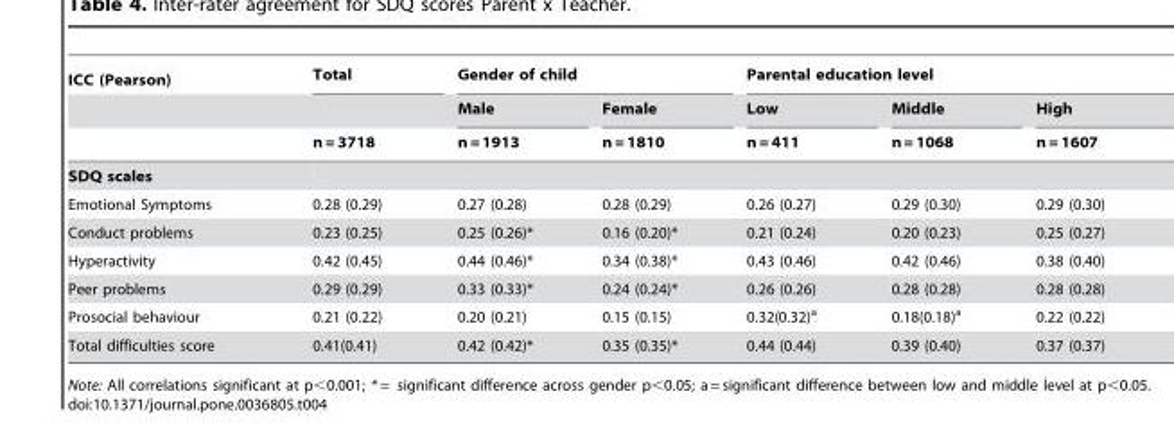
<table><thead><tr><td rowspan="3">ICC (Pearson)</td><td rowspan="3">Total n = 3718</td><td colspan="2">Gender of child</td><td colspan="3">Parental education level</td></tr><tr><td rowspan="2">Male n = 1913</td><td rowspan="2">Female n = 1810</td><td rowspan="2">Low n = 411</td><td rowspan="2">Middle n = 1068</td><td rowspan="2">High n = 1607</td></tr><tr></tr></thead><tbody><tr><td colspan="7">SDQ scales</td></tr><tr><td>Emotional Symptoms</td><td>0.28 (0.29)</td><td>0.27 (0.28)</td><td>0.28 (0.29)</td><td>0.26 (0.27)</td><td>0.29 (0.30)</td><td>0.29 (0.30)</td></tr><tr><td>Conduct problems</td><td>0.23 (0.25)</td><td>0.25 (0.26)*</td><td>0.16 (0.20)*</td><td>0.21 (0.24)</td><td>0.20 (0.23)</td><td>0.25 (0.27)</td></tr><tr><td>Hyperactivity</td><td>0.42 (0.45)</td><td>0.44 (0.46)*</td><td>0.34 (0.38)*</td><td>0.43 (0.46)</td><td>0.42 (0.46)</td><td>0.38 (0.40)</td></tr><tr><td>Peer problems</td><td>0.29 (0.29)</td><td>0.33 (0.33)*</td><td>0.24 (0.24)*</td><td>0.26 (0.26)</td><td>0.28 (0.28)</td><td>0.28 (0.28)</td></tr><tr><td>Prosocial behaviour</td><td>0.21 (0.22)</td><td>0.20 (0.21)</td><td>0.15 (0.15)</td><td>0.32(0.32)<sup>a</sup></td><td>0.18(0.18)<sup>a</sup></td><td>0.22 (0.22)</td></tr><tr><td>Total difficulties score</td><td>0.41(0.41)</td><td>0.42 (0.42)*</td><td>0.35 (0.35)*</td><td>0.44 (0.44)</td><td>0.39 (0.40)</td><td>0.37 (0.37)</td></tr></tbody></table>